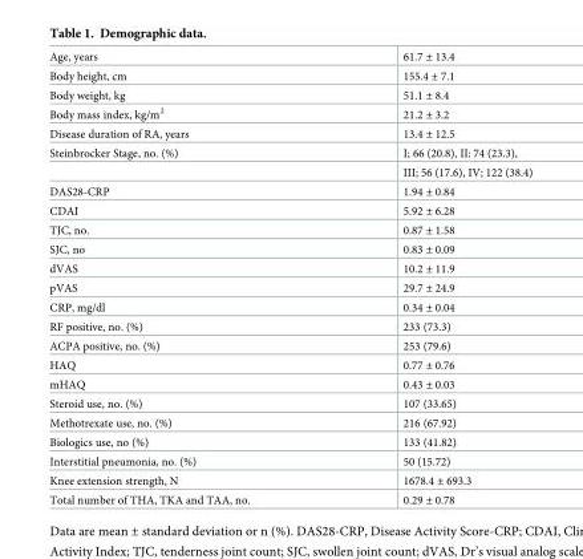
<table><tbody><tr><td>Age, years</td><td>61.7 ± 13.4</td></tr><tr><td>Body height, cm</td><td>155.4 ± 7.1</td></tr><tr><td>Body weight, kg</td><td>51.1 ± 8.4</td></tr><tr><td>Body mass index, kg/m<sup>2</sup></td><td>21.2 ± 3.2</td></tr><tr><td>Disease duration of RA, years</td><td>13.4 ± 12.5</td></tr><tr><td rowspan="2">Steinbrocker Stage, no. (%)</td><td>I; 66 (20.8), II: 74 (23.3),</td></tr><tr><td>III; 56 (17.6), IV; 122 (38.4)</td></tr><tr><td>DAS28-CRP</td><td>1.94 ± 0.84</td></tr><tr><td>CDAI</td><td>5.92 ± 6.28</td></tr><tr><td>TJC, no.</td><td>0.87 ± 1.58</td></tr><tr><td>SJC, no</td><td>0.83 ± 0.09</td></tr><tr><td>dVAS</td><td>10.2 ± 11.9</td></tr><tr><td>pVAS</td><td>29.7 ± 24.9</td></tr><tr><td>CRP, mg/dl</td><td>0.34 ± 0.04</td></tr><tr><td>RF positive, no. (%)</td><td>233 (73.3)</td></tr><tr><td>ACPA positive, no. (%)</td><td>253 (79.6)</td></tr><tr><td>HAQ</td><td>0.77 ± 0.76</td></tr><tr><td>mHAQ</td><td>0.43 ± 0.03</td></tr><tr><td>Steroid use, no. (%)</td><td>107 (33.65)</td></tr><tr><td>Methotrexate use, no. (%)</td><td>216 (67.92)</td></tr><tr><td>Biologics use, no (%)</td><td>133 (41.82)</td></tr><tr><td>Interstitial pneumonia, no. (%)</td><td>50 (15.72)</td></tr><tr><td>Knee extension strength, N</td><td>1678.4 ± 693.3</td></tr><tr><td>Total number of THA, TKA and TAA, no.</td><td>0.29 ± 0.78</td></tr></tbody></table>